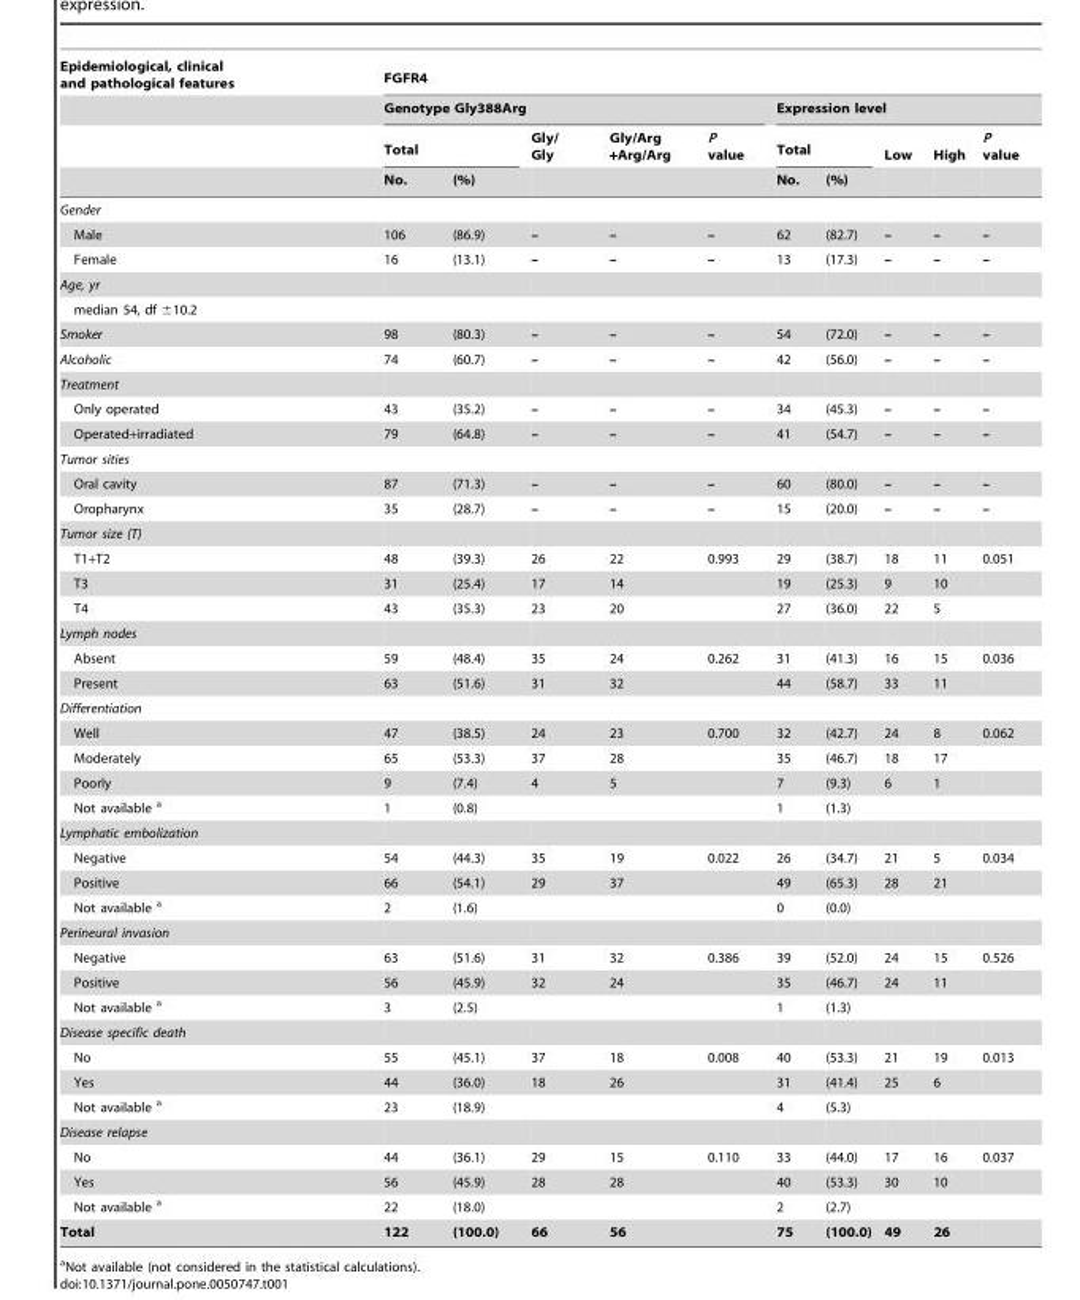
<table><thead><tr><td rowspan="4">Epidemiological, clinical and pathological features</td><td colspan="10">FGFR4</td></tr><tr><td colspan="5">Genotype Gly388Arg</td><td colspan="5">Expression level</td></tr><tr><td colspan="2">Total</td><td rowspan="2">Gly/ Gly</td><td rowspan="2">Gly/Arg +Arg/Arg</td><td rowspan="2">P value</td><td colspan="2">Total</td><td rowspan="2">Low</td><td rowspan="2">High</td><td rowspan="2">P value</td></tr><tr><td>No.</td><td>(%)</td><td>No.</td><td>(%)</td></tr></thead><tbody><tr><td colspan="11">Gender</td></tr><tr><td>Male</td><td>106</td><td>(86.9)</td><td>–</td><td>–</td><td>–</td><td>62</td><td>(82.7)</td><td>–</td><td>–</td><td>–</td></tr><tr><td>Female</td><td>16</td><td>(13.1)</td><td>–</td><td>–</td><td>–</td><td>13</td><td>(17.3)</td><td>–</td><td>–</td><td>–</td></tr><tr><td colspan="11">Age, yr</td></tr><tr><td colspan="11">median 54, df ±10.2</td></tr><tr><td>Smoker</td><td>98</td><td>(80.3)</td><td>–</td><td>–</td><td>–</td><td>54</td><td>(72.0)</td><td>–</td><td>–</td><td>–</td></tr><tr><td>Alcoholic</td><td>74</td><td>(60.7)</td><td>–</td><td>–</td><td>–</td><td>42</td><td>(56.0)</td><td>–</td><td>–</td><td>–</td></tr><tr><td colspan="11">Treatment</td></tr><tr><td>Only operated</td><td>43</td><td>(35.2)</td><td>–</td><td>–</td><td>–</td><td>34</td><td>(45.3)</td><td>–</td><td>–</td><td>–</td></tr><tr><td>Operated+irradiated</td><td>79</td><td>(64.8)</td><td>–</td><td>–</td><td>–</td><td>41</td><td>(54.7)</td><td>–</td><td>–</td><td>–</td></tr><tr><td colspan="11">Tumor sities</td></tr><tr><td>Oral cavity</td><td>87</td><td>(71.3)</td><td>–</td><td>–</td><td>–</td><td>60</td><td>(80.0)</td><td>–</td><td>–</td><td>–</td></tr><tr><td>Oropharynx</td><td>35</td><td>(28.7)</td><td>–</td><td>–</td><td>–</td><td>15</td><td>(20.0)</td><td>–</td><td>–</td><td>–</td></tr><tr><td colspan="11">Tumor size (T)</td></tr><tr><td>T1+T2</td><td>48</td><td>(39.3)</td><td>26</td><td>22</td><td>0.993</td><td>29</td><td>(38.7)</td><td>18</td><td>11</td><td>0.051</td></tr><tr><td>T3</td><td>31</td><td>(25.4)</td><td>17</td><td>14</td><td></td><td>19</td><td>(25.3)</td><td>9</td><td>10</td><td></td></tr><tr><td>T4</td><td>43</td><td>(35.3)</td><td>23</td><td>20</td><td></td><td>27</td><td>(36.0)</td><td>22</td><td>5</td><td></td></tr><tr><td colspan="11">Lymph nodes</td></tr><tr><td>Absent</td><td>59</td><td>(48.4)</td><td>35</td><td>24</td><td>0.262</td><td>31</td><td>(41.3)</td><td>16</td><td>15</td><td>0.036</td></tr><tr><td>Present</td><td>63</td><td>(51.6)</td><td>31</td><td>32</td><td></td><td>44</td><td>(58.7)</td><td>33</td><td>11</td><td></td></tr><tr><td colspan="11">Differentiation</td></tr><tr><td>Well</td><td>47</td><td>(38.5)</td><td>24</td><td>23</td><td>0.700</td><td>32</td><td>(42.7)</td><td>24</td><td>8</td><td>0.062</td></tr><tr><td>Moderately</td><td>65</td><td>(53.3)</td><td>37</td><td>28</td><td></td><td>35</td><td>(46.7)</td><td>18</td><td>17</td><td></td></tr><tr><td>Poorly</td><td>9</td><td>(7.4)</td><td>4</td><td>5</td><td></td><td>7</td><td>(9.3)</td><td>6</td><td>1</td><td></td></tr><tr><td>Not available a</td><td>1</td><td>(0.8)</td><td></td><td></td><td></td><td>1</td><td>(1.3)</td><td></td><td></td><td></td></tr><tr><td colspan="11">Lymphatic embolization</td></tr><tr><td>Negative</td><td>54</td><td>(44.3)</td><td>35</td><td>19</td><td>0.022</td><td>26</td><td>(34.7)</td><td>21</td><td>5</td><td>0.034</td></tr><tr><td>Positive</td><td>66</td><td>(54.1)</td><td>29</td><td>37</td><td></td><td>49</td><td>(65.3)</td><td>28</td><td>21</td><td></td></tr><tr><td>Not available a</td><td>2</td><td>(1.6)</td><td></td><td></td><td></td><td>0</td><td>(0.0)</td><td></td><td></td><td></td></tr><tr><td colspan="11">Perineural invasion</td></tr><tr><td>Negative</td><td>63</td><td>(51.6)</td><td>31</td><td>32</td><td>0.386</td><td>39</td><td>(52.0)</td><td>24</td><td>15</td><td>0.526</td></tr><tr><td>Positive</td><td>56</td><td>(45.9)</td><td>32</td><td>24</td><td></td><td>35</td><td>(46.7)</td><td>24</td><td>11</td><td></td></tr><tr><td>Not available a</td><td>3</td><td>(2.5)</td><td></td><td></td><td></td><td>1</td><td>(1.3)</td><td></td><td></td><td></td></tr><tr><td colspan="11">Disease specific death</td></tr><tr><td>No</td><td>55</td><td>(45.1)</td><td>37</td><td>18</td><td>0.008</td><td>40</td><td>(53.3)</td><td>21</td><td>19</td><td>0.013</td></tr><tr><td>Yes</td><td>44</td><td>(36.0)</td><td>18</td><td>26</td><td></td><td>31</td><td>(41.4)</td><td>25</td><td>6</td><td></td></tr><tr><td>Not available a</td><td>23</td><td>(18.9)</td><td></td><td></td><td></td><td>4</td><td>(5.3)</td><td></td><td></td><td></td></tr><tr><td colspan="11">Disease relapse</td></tr><tr><td>No</td><td>44</td><td>(36.1)</td><td>29</td><td>15</td><td>0.110</td><td>33</td><td>(44.0)</td><td>17</td><td>16</td><td>0.037</td></tr><tr><td>Yes</td><td>56</td><td>(45.9)</td><td>28</td><td>28</td><td></td><td>40</td><td>(53.3)</td><td>30</td><td>10</td><td></td></tr><tr><td>Not available a</td><td>22</td><td>(18.0)</td><td></td><td></td><td></td><td>2</td><td>(2.7)</td><td></td><td></td><td></td></tr><tr><td>Total</td><td>122</td><td>(100.0)</td><td>66</td><td>56</td><td></td><td>75</td><td>(100.0)</td><td>49</td><td>26</td><td></td></tr></tbody></table>